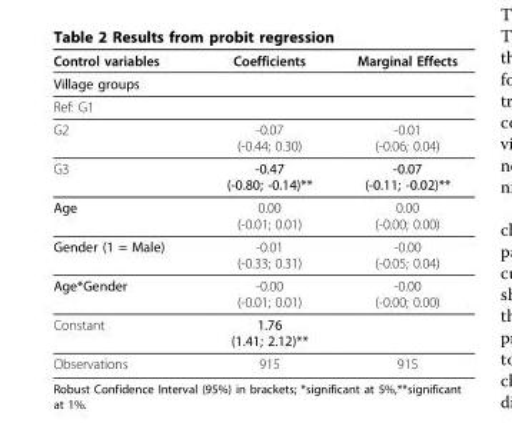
<table><thead><tr><td>Control variables</td><td>Coefficients</td><td>Marginal Effects</td></tr></thead><tbody><tr><td colspan="3">Village groups</td></tr><tr><td colspan="3">Ref: G1</td></tr><tr><td>G2</td><td>-0.07 (-0.44; 0.30)</td><td>-0.01 (-0.06; 0.04)</td></tr><tr><td>G3</td><td>-0.47 (-0.80; -0.14)**</td><td>-0.07 (-0.11; -0.02)**</td></tr><tr><td>Age</td><td>0.00 (-0.01; 0.01)</td><td>0.00 (-0.00; 0.00)</td></tr><tr><td>Gender (1 = Male)</td><td>-0.01 (-0.33; 0.31)</td><td>-0.00 (-0.05; 0.04)</td></tr><tr><td>Age*Gender</td><td>-0.00 (-0.01; 0.01)</td><td>-0.00 (-0.00; 0.00)</td></tr><tr><td>Constant</td><td>1.76 (1.41; 2.12)**</td><td></td></tr><tr><td>Observations</td><td>915</td><td>915</td></tr></tbody></table>